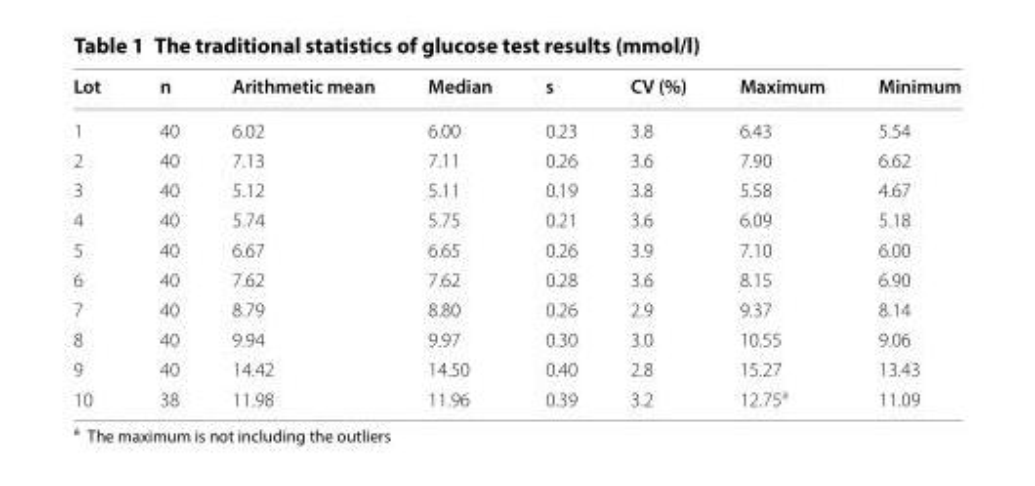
<table><thead><tr><td>Lot</td><td>n</td><td>Arithmetic mean</td><td>Median</td><td>s</td><td>CV (%)</td><td>Maximum</td><td>Minimum</td></tr></thead><tbody><tr><td>1</td><td>40</td><td>6.02</td><td>6.00</td><td>0.23</td><td>3.8</td><td>6.43</td><td>5.54</td></tr><tr><td>2</td><td>40</td><td>7.13</td><td>7.11</td><td>0.26</td><td>3.6</td><td>7.90</td><td>6.62</td></tr><tr><td>3</td><td>40</td><td>5.12</td><td>5.11</td><td>0.19</td><td>3.8</td><td>5.58</td><td>4.67</td></tr><tr><td>4</td><td>40</td><td>5.74</td><td>5.75</td><td>0.21</td><td>3.6</td><td>6.09</td><td>5.18</td></tr><tr><td>5</td><td>40</td><td>6.67</td><td>6.65</td><td>0.26</td><td>3.9</td><td>7.10</td><td>6.00</td></tr><tr><td>6</td><td>40</td><td>7.62</td><td>7.62</td><td>0.28</td><td>3.6</td><td>8.15</td><td>6.90</td></tr><tr><td>7</td><td>40</td><td>8.79</td><td>8.80</td><td>0.26</td><td>2.9</td><td>9.37</td><td>8.14</td></tr><tr><td>8</td><td>40</td><td>9.94</td><td>9.97</td><td>0.30</td><td>3.0</td><td>10.55</td><td>9.06</td></tr><tr><td>9</td><td>40</td><td>14.42</td><td>14.50</td><td>0.40</td><td>2.8</td><td>15.27</td><td>13.43</td></tr><tr><td>10</td><td>38</td><td>11.98</td><td>11.96</td><td>0.39</td><td>3.2</td><td>12.75<sup>a</sup></td><td>11.09</td></tr></tbody></table>